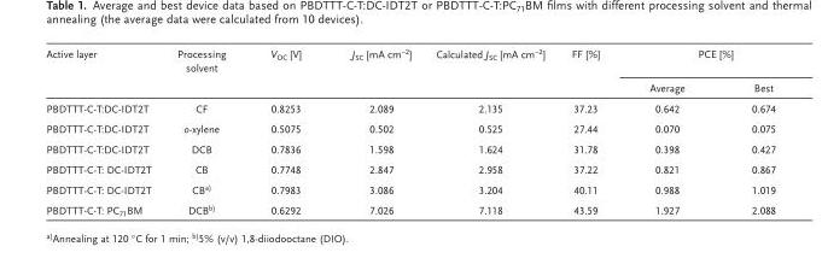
<table><thead><tr><td rowspan="2">Active layer</td><td rowspan="2">Processing solvent</td><td rowspan="2">V <sub>OC</sub> [V]</td><td rowspan="2">J <sub>SC</sub> [mA cm <sup>−2</sup> ]</td><td rowspan="2">Calculated J <sub>SC</sub> [mA cm <sup>−2</sup> ]</td><td rowspan="2">FF [%]</td><td colspan="2">PCE [%]</td></tr><tr><td>Average</td><td>Best</td></tr></thead><tbody><tr><td>PBDTTT-C-T:DC-IDT2T</td><td>CF</td><td>0.8253</td><td>2.089</td><td>2.135</td><td>37.23</td><td>0.642</td><td>0.674</td></tr><tr><td>PBDTTT-C-T:DC-IDT2T</td><td>o -xylene</td><td>0.5075</td><td>0.502</td><td>0.525</td><td>27.44</td><td>0.070</td><td>0.075</td></tr><tr><td>PBDTTT-C-T:DC-IDT2T</td><td>DCB</td><td>0.7836</td><td>1.598</td><td>1.624</td><td>31.78</td><td>0.398</td><td>0.427</td></tr><tr><td>PBDTTT-C-T: DC-IDT2T</td><td>CB</td><td>0.7748</td><td>2.847</td><td>2.958</td><td>37.22</td><td>0.821</td><td>0.867</td></tr><tr><td>PBDTTT-C-T: DC-IDT2T</td><td>CB a)</td><td>0.7983</td><td>3.086</td><td>3.204</td><td>40.11</td><td>0.988</td><td>1.019</td></tr><tr><td>PBDTTT-C-T: PC <sub>71</sub> BM</td><td>DCB b)</td><td>0.6292</td><td>7.026</td><td>7.118</td><td>43.59</td><td>1.927</td><td>2.088</td></tr></tbody></table>